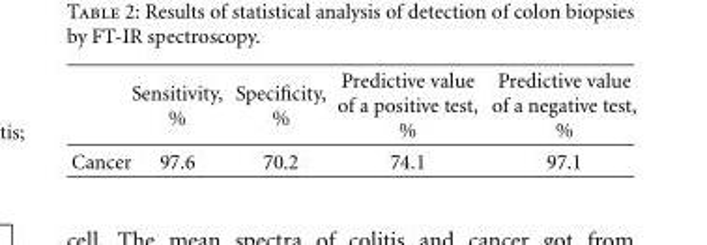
<table><thead><tr><td></td><td>Sensitivity, %</td><td>Specificity, %</td><td>Predictive value of a positive test, %</td><td>Predictive value of a negative test, %</td></tr></thead><tbody><tr><td>Cancer</td><td>97.6</td><td>70.2</td><td>74.1</td><td>97.1</td></tr></tbody></table>